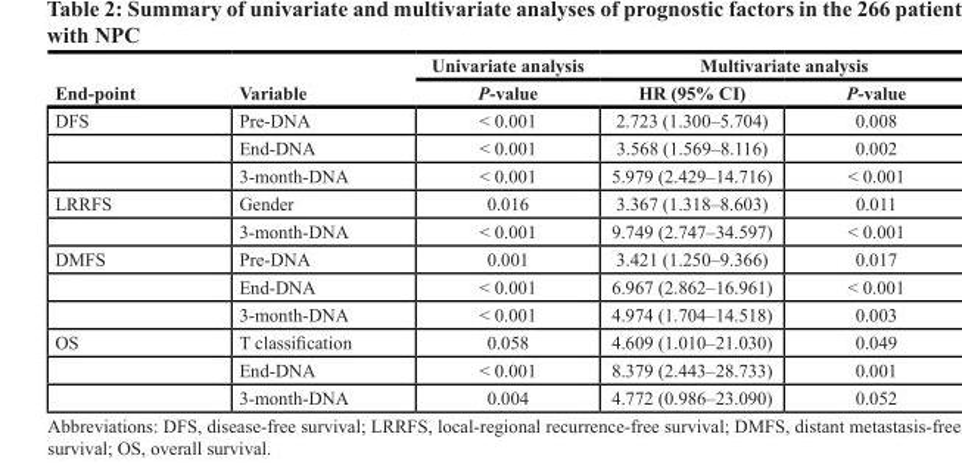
<table><thead><tr><td rowspan="2">End-point</td><td rowspan="2">Variable</td><td rowspan="2">Univariate analysis P-value</td><td colspan="2">Multivariate analysis</td></tr><tr><td>HR (95% CI)</td><td>P-value</td></tr></thead><tbody><tr><td rowspan="3">DFS</td><td>Pre-DNA</td><td>&lt; 0.001</td><td>2.723 (1.300–5.704)</td><td>0.008</td></tr><tr><td>End-DNA</td><td>&lt; 0.001</td><td>3.568 (1.569–8.116)</td><td>0.002</td></tr><tr><td>3-month-DNA</td><td>&lt; 0.001</td><td>5.979 (2.429–14.716)</td><td>&lt; 0.001</td></tr><tr><td rowspan="2">LRRFS</td><td>Gender</td><td>0.016</td><td>3.367 (1.318–8.603)</td><td>0.011</td></tr><tr><td>3-month-DNA</td><td>&lt; 0.001</td><td>9.749 (2.747–34.597)</td><td>&lt; 0.001</td></tr><tr><td rowspan="3">DMFS</td><td>Pre-DNA</td><td>0.001</td><td>3.421 (1.250–9.366)</td><td>0.017</td></tr><tr><td>End-DNA</td><td>&lt; 0.001</td><td>6.967 (2.862–16.961)</td><td>&lt; 0.001</td></tr><tr><td>3-month-DNA</td><td>&lt; 0.001</td><td>4.974 (1.704–14.518)</td><td>0.003</td></tr><tr><td rowspan="3">OS</td><td>T classification</td><td>0.058</td><td>4.609 (1.010–21.030)</td><td>0.049</td></tr><tr><td>End-DNA</td><td>&lt; 0.001</td><td>8.379 (2.443–28.733)</td><td>0.001</td></tr><tr><td>3-month-DNA</td><td>0.004</td><td>4.772 (0.986–23.090)</td><td>0.052</td></tr></tbody></table>